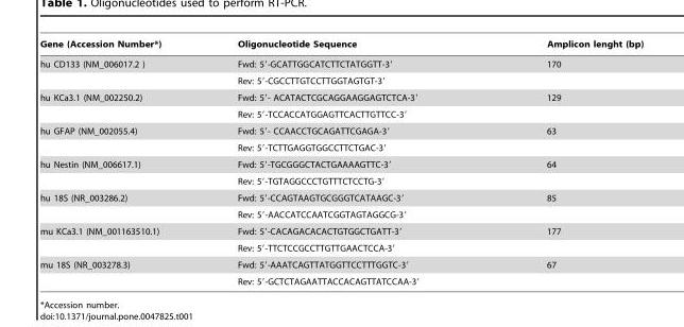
<table><thead><tr><td>Gene (Accession Number*)</td><td>Oligonucleotide Sequence</td><td>Amplicon lenght (bp)</td></tr></thead><tbody><tr><td rowspan="2">hu CD133 (NM_006017.2 )</td><td>Fwd: 5′-GCATTGGCATCTTCTATGGTT-3′</td><td>170</td></tr><tr><td>Rev: 5′-CGCCTTGTCCTTGGTAGTGT-3′</td><td></td></tr><tr><td rowspan="2">hu KCa3.1 (NM_002250.2)</td><td>Fwd: 5′- ACATACTCGCAGGAAGGAGTCTCA-3′</td><td>129</td></tr><tr><td>Rev: 5′-TCCACCATGGAGTTCACTTGTTCC-3′</td><td></td></tr><tr><td rowspan="2">hu GFAP (NM_002055.4)</td><td>Fwd: 5′- CCAACCTGCAGATTCGAGA-3′</td><td>63</td></tr><tr><td>Rev: 5′-TCTTGAGGTGGCCTTCTGAC-3′</td><td></td></tr><tr><td rowspan="2">hu Nestin (NM_006617.1)</td><td>Fwd: 5′-TGCGGGCTACTGAAAAGTTC-3′</td><td>64</td></tr><tr><td>Rev: 5′-TGTAGGCCCTGTTTCTCCTG-3′</td><td></td></tr><tr><td rowspan="2">hu 18S (NR_003286.2)</td><td>Fwd: 5′-CCAGTAAGTGCGGGTCATAAGC-3′</td><td>85</td></tr><tr><td>Rev: 5′-AACCATCCAATCGGTAGTAGGCG-3′</td><td></td></tr><tr><td rowspan="2">mu KCa3.1 (NM_001163510.1)</td><td>Fwd: 5′-CACAGACACACTGTGGCTGATT-3′</td><td>177</td></tr><tr><td>Rev: 5′-TTCTCCGCCTTGTTGAACTCCA-3′</td><td></td></tr><tr><td rowspan="2">mu 18S (NR_003278.3)</td><td>Fwd: 5′-AAATCAGTTATGGTTCCTTTGGTC-3′</td><td>67</td></tr><tr><td>Rev: 5′-GCTCTAGAATTACCACAGTTATCCAA-3′</td><td></td></tr></tbody></table>